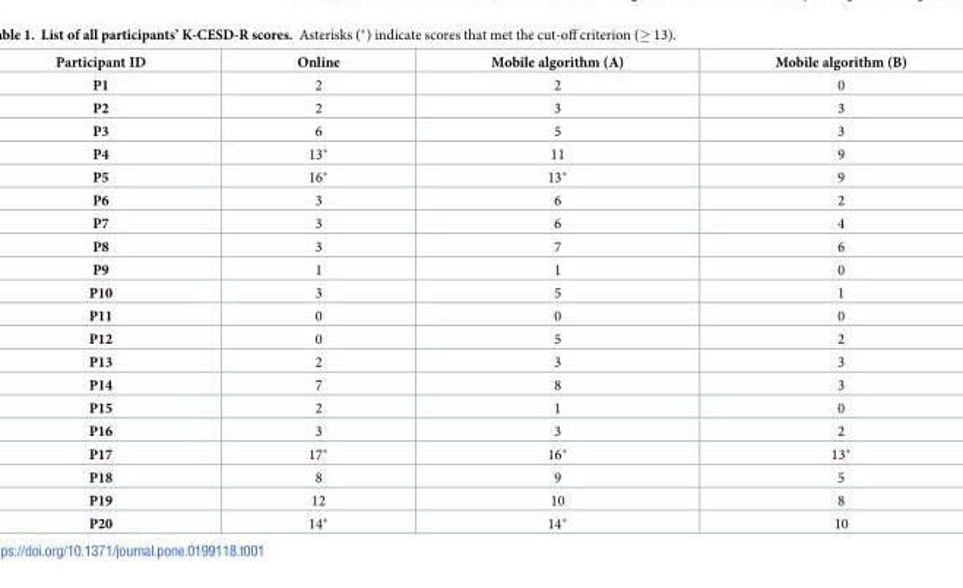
<table><thead><tr><td>Participant ID</td><td>Online</td><td>Mobile algorithm (A)</td><td>Mobile algorithm (B)</td></tr></thead><tbody><tr><td>P1</td><td>2</td><td>2</td><td>0</td></tr><tr><td>P2</td><td>2</td><td>3</td><td>3</td></tr><tr><td>P3</td><td>6</td><td>5</td><td>3</td></tr><tr><td>P4</td><td>13*</td><td>11</td><td>9</td></tr><tr><td>P5</td><td>16*</td><td>13*</td><td>9</td></tr><tr><td>P6</td><td>3</td><td>6</td><td>2</td></tr><tr><td>P7</td><td>3</td><td>6</td><td>4</td></tr><tr><td>P8</td><td>3</td><td>7</td><td>6</td></tr><tr><td>P9</td><td>1</td><td>1</td><td>0</td></tr><tr><td>P10</td><td>3</td><td>5</td><td>1</td></tr><tr><td>P11</td><td>0</td><td>0</td><td>0</td></tr><tr><td>P12</td><td>0</td><td>5</td><td>2</td></tr><tr><td>P13</td><td>2</td><td>3</td><td>3</td></tr><tr><td>P14</td><td>7</td><td>8</td><td>3</td></tr><tr><td>P15</td><td>2</td><td>1</td><td>0</td></tr><tr><td>P16</td><td>3</td><td>3</td><td>2</td></tr><tr><td>P17</td><td>17*</td><td>16*</td><td>13*</td></tr><tr><td>P18</td><td>8</td><td>9</td><td>5</td></tr><tr><td>P19</td><td>12</td><td>10</td><td>8</td></tr><tr><td>P20</td><td>14*</td><td>14*</td><td>10</td></tr></tbody></table>